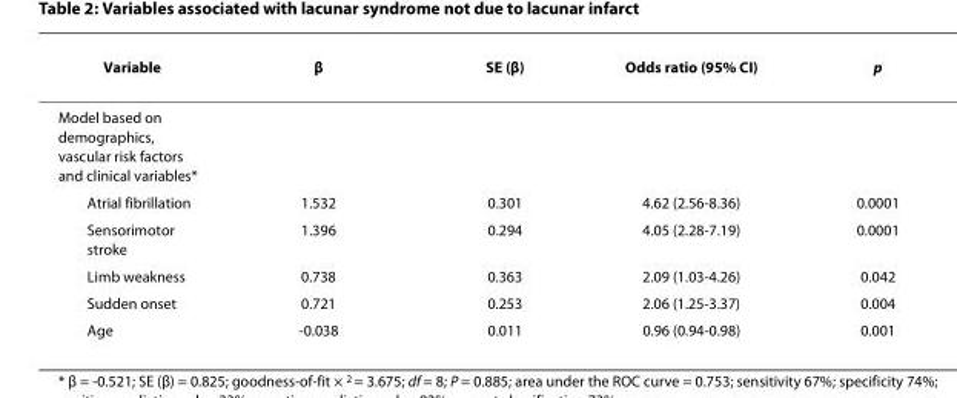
<table><tbody><tr><td>Variable</td><td>β</td><td>SE (β)</td><td>Odds ratio (95% CI)</td><td>p</td></tr><tr><td colspan="5">Model based on demographics, vascular risk factors and clinical variables*</td></tr><tr><td>Atrial fibrillation</td><td>1.532</td><td>0.301</td><td>4.62 (2.56-8.36)</td><td>0.0001</td></tr><tr><td>Sensorimotor stroke</td><td>1.396</td><td>0.294</td><td>4.05 (2.28-7.19)</td><td>0.0001</td></tr><tr><td>Limb weakness</td><td>0.738</td><td>0.363</td><td>2.09 (1.03-4.26)</td><td>0.042</td></tr><tr><td>Sudden onset</td><td>0.721</td><td>0.253</td><td>2.06 (1.25-3.37)</td><td>0.004</td></tr><tr><td>Age</td><td>-0.038</td><td>0.011</td><td>0.96 (0.94-0.98)</td><td>0.001</td></tr></tbody></table>